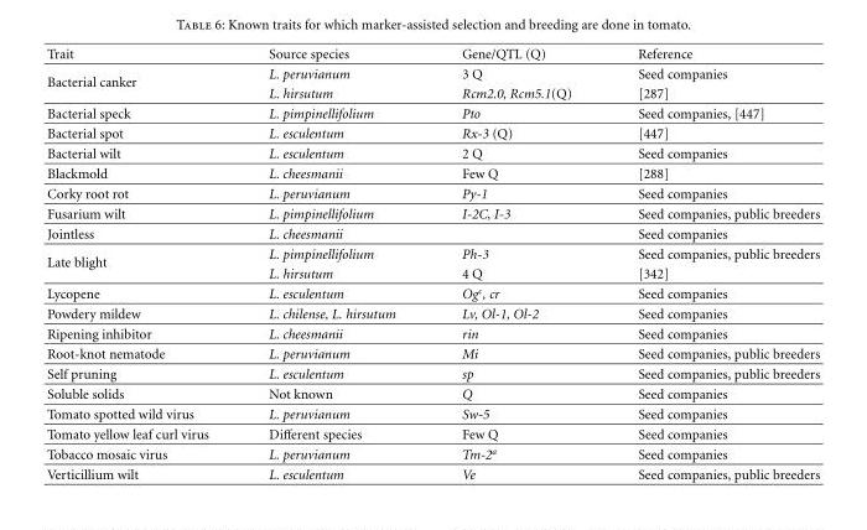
<table><thead><tr><td>Trait</td><td>Source species</td><td>Gene/QTL (Q)</td><td>Reference</td></tr></thead><tbody><tr><td rowspan="2">Bacterial canker</td><td>L. peruvianum</td><td>3 Q</td><td>Seed companies</td></tr><tr><td>L. hirsutum</td><td>Rcm2.0, Rcm5.1(Q)</td><td>[287]</td></tr><tr><td>Bacterial speck</td><td>L. pimpinellifolium</td><td>Pto</td><td>Seed companies, [447]</td></tr><tr><td>Bacterial spot</td><td>L. esculentum</td><td>Rx-3 (Q)</td><td>[447]</td></tr><tr><td>Bacterial wilt</td><td>L. esculentum</td><td>2 Q</td><td>Seed companies</td></tr><tr><td>Blackmold</td><td>L. cheesmanii</td><td>Few Q</td><td>[288]</td></tr><tr><td>Corky root rot</td><td>L. peruvianum</td><td>Py-1</td><td>Seed companies</td></tr><tr><td>Fusarium wilt</td><td>L. pimpinellifolium</td><td>I-2C, I-3</td><td>Seed companies, public breeders</td></tr><tr><td>Jointless</td><td>L. cheesmanii</td><td></td><td>Seed companies</td></tr><tr><td rowspan="2">Late blight</td><td>L. pimpinellifolium</td><td>Ph-3</td><td>Seed companies, public breeders</td></tr><tr><td>L. hirsutum</td><td>4 Q</td><td>[342]</td></tr><tr><td>Lycopene</td><td>L. esculentum</td><td>Ogc, cr</td><td>Seed companies</td></tr><tr><td>Powdery mildew</td><td>L. chilense, L. hirsutum</td><td>Lv, Ol-1, Ol-2</td><td>Seed companies</td></tr><tr><td>Ripening inhibitor</td><td>L. cheesmanii</td><td>rin</td><td>Seed companies</td></tr><tr><td>Root-knot nematode</td><td>L. peruvianum</td><td>Mi</td><td>Seed companies, public breeders</td></tr><tr><td>Self pruning</td><td>L. esculentum</td><td>sp</td><td>Seed companies, public breeders</td></tr><tr><td>Soluble solids</td><td>Not known</td><td>Q</td><td>Seed companies</td></tr><tr><td>Tomato spotted wild virus</td><td>L. peruvianum</td><td>Sw-5</td><td>Seed companies</td></tr><tr><td>Tomato yellow leaf curl virus</td><td>Different species</td><td>Few Q</td><td>Seed companies</td></tr><tr><td>Tobacco mosaic virus</td><td>L. peruvianum</td><td>Tm-2a</td><td>Seed companies</td></tr><tr><td>Verticillium wilt</td><td>L. esculentum</td><td>Ve</td><td>Seed companies, public breeders</td></tr></tbody></table>